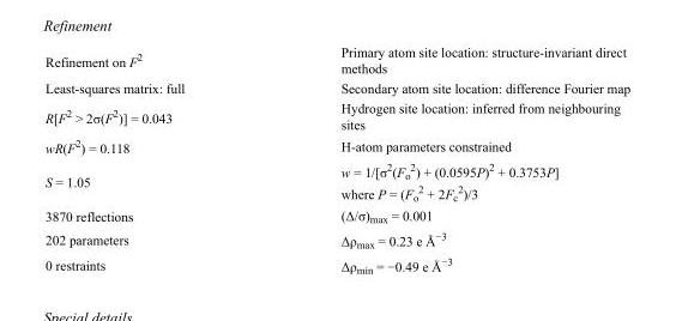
<table><tbody><tr><td>Refinement on F<sup>2</sup></td><td>Primary atom site location: structure-invariant direct methods</td></tr><tr><td>Least-squares matrix: full</td><td>Secondary atom site location: difference Fourier map</td></tr><tr><td>R[F<sup>2</sup> &gt; 2σ(F<sup>2</sup>)] = 0.043</td><td>Hydrogen site location: inferred from neighbouring sites</td></tr><tr><td>wR(F<sup>2</sup>) = 0.118</td><td>H-atom parameters constrained</td></tr><tr><td>S = 1.05</td><td>w = 1/[σ<sup>2</sup>(F<sub>o</sub> <sup>2</sup>) + (0.0595P)<sup>2</sup> + 0.3753P] where P = (F<sub>o</sub> <sup>2</sup> + 2F<sub>c</sub> <sup>2</sup>)/3</td></tr><tr><td>3870 reflections</td><td>(Δ/σ)<sub>max</sub> = 0.001</td></tr><tr><td>202 parameters</td><td>Δρ<sub>max</sub> = 0.23 e Å<sup>−3</sup></td></tr><tr><td>0 restraints</td><td>Δρ<sub>min</sub> = −0.49 e Å<sup>−3</sup></td></tr></tbody></table>